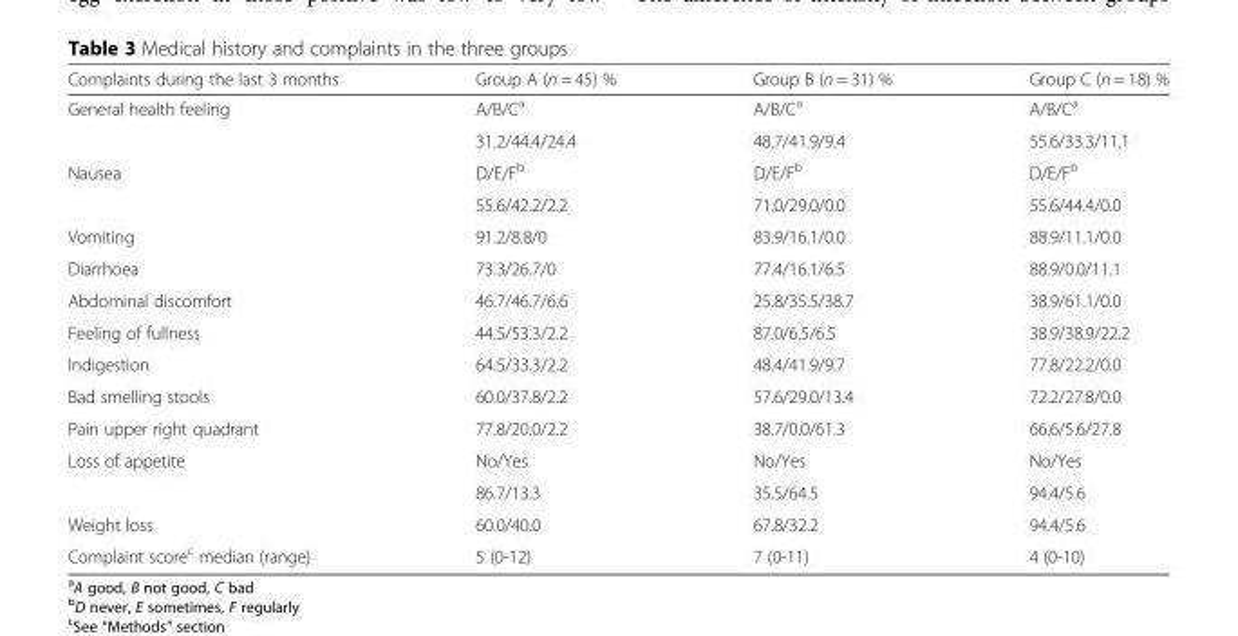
<table><thead><tr><td>Complaints during the last 3 months</td><td>Group A (n = 45) %</td><td>Group B (n = 31) %</td><td>Group C (n = 18) %</td></tr></thead><tbody><tr><td rowspan="2">General health feeling</td><td>A/B/C<sup>a</sup></td><td>A/B/C<sup>a</sup></td><td>A/B/C<sup>a</sup></td></tr><tr><td>31.2/44.4/24.4</td><td>48.7/41.9/9.4</td><td>55.6/33.3/11.1</td></tr><tr><td rowspan="2">Nausea</td><td>D/E/F<sup>b</sup></td><td>D/E/F<sup>b</sup></td><td>D/E/F<sup>b</sup></td></tr><tr><td>55.6/42.2/2.2</td><td>71.0/29.0/0.0</td><td>55.6/44.4/0.0</td></tr><tr><td>Vomiting</td><td>91.2/8.8/0</td><td>83.9/16.1/0.0</td><td>88.9/11.1/0.0</td></tr><tr><td>Diarrhoea</td><td>73.3/26.7/0</td><td>77.4/16.1/6.5</td><td>88.9/0.0/11.1</td></tr><tr><td>Abdominal discomfort</td><td>46.7/46.7/6.6</td><td>25.8/35.5/38.7</td><td>38.9/61.1/0.0</td></tr><tr><td>Feeling of fullness</td><td>44.5/53.3/2.2</td><td>87.0/6.5/6.5</td><td>38.9/38.9/22.2</td></tr><tr><td>Indigestion</td><td>64.5/33.3/2.2</td><td>48.4/41.9/9.7</td><td>77.8/22.2/0.0</td></tr><tr><td>Bad smelling stools</td><td>60.0/37.8/2.2</td><td>57.6/29.0/13.4</td><td>72.2/27.8/0.0</td></tr><tr><td>Pain upper right quadrant</td><td>77.8/20.0/2.2</td><td>38.7/0.0/61.3</td><td>66.6/5.6/27.8</td></tr><tr><td rowspan="2">Loss of appetite</td><td>No/Yes</td><td>No/Yes</td><td>No/Yes</td></tr><tr><td>86.7/13.3</td><td>35.5/64.5</td><td>94.4/5.6</td></tr><tr><td>Weight loss</td><td>60.0/40.0</td><td>67.8/32.2</td><td>94.4/5.6</td></tr><tr><td>Complaint score<sup>c</sup> median (range)</td><td>5 (0-12)</td><td>7 (0-11)</td><td>4 (0-10)</td></tr></tbody></table>